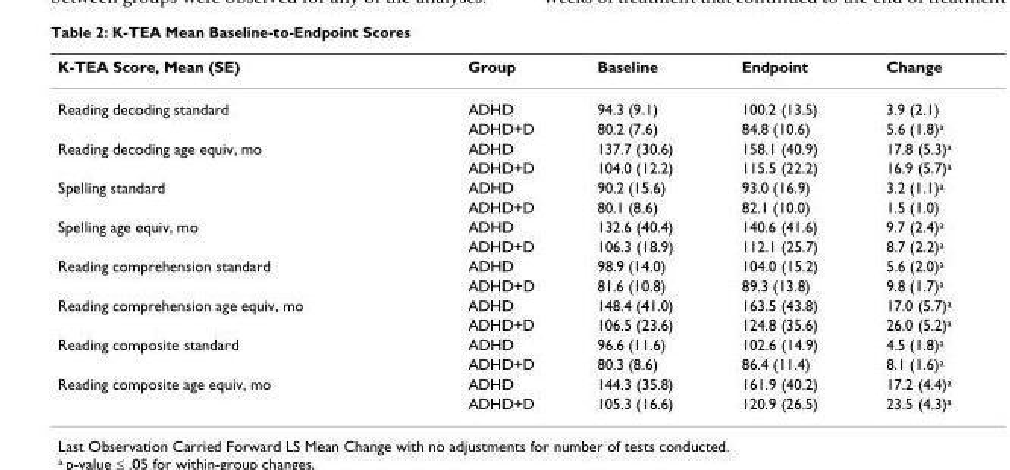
<table><thead><tr><td>K-TEA Score, Mean (SE)</td><td>Group</td><td>Baseline</td><td>Endpoint</td><td>Change</td></tr></thead><tbody><tr><td rowspan="2">Reading decoding standard</td><td>ADHD</td><td>94.3 (9.1)</td><td>100.2 (13.5)</td><td>3.9 (2.1)</td></tr><tr><td>ADHD+D</td><td>80.2 (7.6)</td><td>84.8 (10.6)</td><td>5.6 (1.8)<sup>a</sup></td></tr><tr><td rowspan="2">Reading decoding age equiv, mo</td><td>ADHD</td><td>137.7 (30.6)</td><td>158.1 (40.9)</td><td>17.8 (5.3)<sup>a</sup></td></tr><tr><td>ADHD+D</td><td>104.0 (12.2)</td><td>115.5 (22.2)</td><td>16.9 (5.7)<sup>a</sup></td></tr><tr><td rowspan="2">Spelling standard</td><td>ADHD</td><td>90.2 (15.6)</td><td>93.0 (16.9)</td><td>3.2 (1.1)<sup>a</sup></td></tr><tr><td>ADHD+D</td><td>80.1 (8.6)</td><td>82.1 (10.0)</td><td>1.5 (1.0)</td></tr><tr><td rowspan="2">Spelling age equiv, mo</td><td>ADHD</td><td>132.6 (40.4)</td><td>140.6 (41.6)</td><td>9.7 (2.4)<sup>a</sup></td></tr><tr><td>ADHD+D</td><td>106.3 (18.9)</td><td>112.1 (25.7)</td><td>8.7 (2.2)<sup>a</sup></td></tr><tr><td rowspan="2">Reading comprehension standard</td><td>ADHD</td><td>98.9 (14.0)</td><td>104.0 (15.2)</td><td>5.6 (2.0)<sup>a</sup></td></tr><tr><td>ADHD+D</td><td>81.6 (10.8)</td><td>89.3 (13.8)</td><td>9.8 (1.7)<sup>a</sup></td></tr><tr><td rowspan="2">Reading comprehension age equiv, mo</td><td>ADHD</td><td>148.4 (41.0)</td><td>163.5 (43.8)</td><td>17.0 (5.7)<sup>a</sup></td></tr><tr><td>ADHD+D</td><td>106.5 (23.6)</td><td>124.8 (35.6)</td><td>26.0 (5.2)<sup>a</sup></td></tr><tr><td rowspan="2">Reading composite standard</td><td>ADHD</td><td>96.6 (11.6)</td><td>102.6 (14.9)</td><td>4.5 (1.8)<sup>a</sup></td></tr><tr><td>ADHD+D</td><td>80.3 (8.6)</td><td>86.4 (11.4)</td><td>8.1 (1.6)<sup>a</sup></td></tr><tr><td rowspan="2">Reading composite age equiv, mo</td><td>ADHD</td><td>144.3 (35.8)</td><td>161.9 (40.2)</td><td>17.2 (4.4)<sup>a</sup></td></tr><tr><td>ADHD+D</td><td>105.3 (16.6)</td><td>120.9 (26.5)</td><td>23.5 (4.3)<sup>a</sup></td></tr></tbody></table>